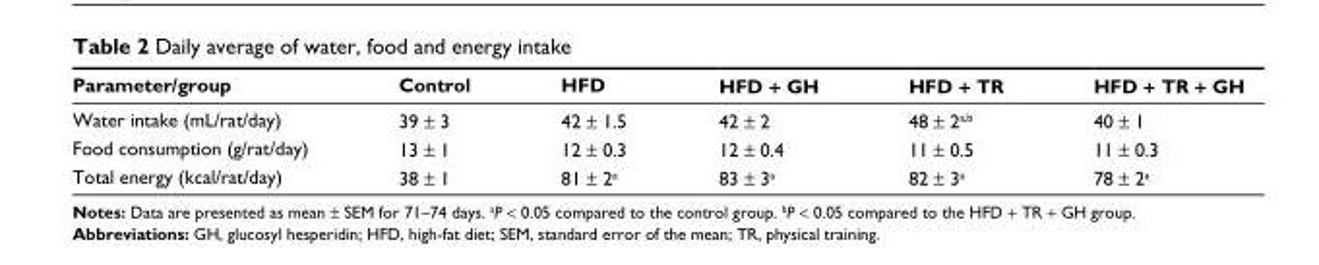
<table><thead><tr><td>Parameter/group</td><td>Control</td><td>HFD</td><td>HFD + GH</td><td>HFD + TR</td><td>HFD + TR + GH</td></tr></thead><tbody><tr><td>Water intake (mL/rat/day)</td><td>39 ± 3</td><td>42 ± 1.5</td><td>42 ± 2</td><td>48 ± 2<sup>a</sup>,<sup>b</sup></td><td>40 ± 1</td></tr><tr><td>Food consumption (g/rat/day)</td><td>13 ± 1</td><td>12 ± 0.3</td><td>12 ± 0.4</td><td>11 ± 0.5</td><td>11 ± 0.3</td></tr><tr><td>Total energy (kcal/rat/day)</td><td>38 ± 1</td><td>81 ± 2<sup>a</sup></td><td>83 ± 3<sup>a</sup></td><td>82 ± 3<sup>a</sup></td><td>78 ± 2<sup>a</sup></td></tr></tbody></table>